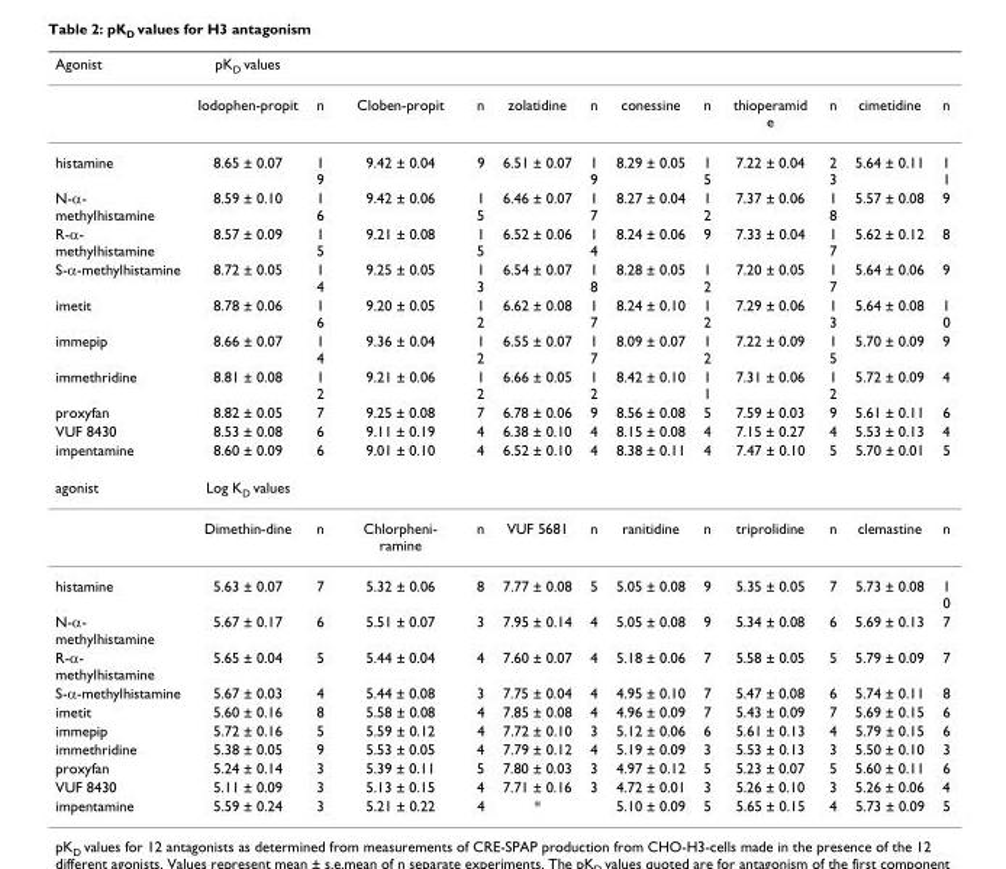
<table><thead><tr><td>Agonist</td><td>pK<sub>D</sub> values</td><td></td><td></td><td></td><td></td><td></td><td></td><td></td><td></td><td></td><td></td><td></td></tr></thead><tbody><tr><td></td><td>Iodophen-propit</td><td>n</td><td>Cloben-propit</td><td>n</td><td>zolatidine</td><td>n</td><td>conessine</td><td>n</td><td>thioperamid e</td><td>n</td><td>cimetidine</td><td>n</td></tr><tr><td>histamine</td><td>8.65 ± 0.07</td><td>1 9</td><td>9.42 ± 0.04</td><td>9</td><td>6.51 ± 0.07</td><td>1 9</td><td>8.29 ± 0.05</td><td>1 5</td><td>7.22 ± 0.04</td><td>2 3</td><td>5.64 ± 0.11</td><td>1 1</td></tr><tr><td>N-α- methylhistamine</td><td>8.59 ± 0.10</td><td>1 6</td><td>9.42 ± 0.06</td><td>1 5</td><td>6.46 ± 0.07</td><td>1 7</td><td>8.27 ± 0.04</td><td>1 2</td><td>7.37 ± 0.06</td><td>1 8</td><td>5.57 ± 0.08</td><td>9</td></tr><tr><td>R-α- methylhistamine</td><td>8.57 ± 0.09</td><td>1 5</td><td>9.21 ± 0.08</td><td>1 5</td><td>6.52 ± 0.06</td><td>1 4</td><td>8.24 ± 0.06</td><td>9</td><td>7.33 ± 0.04</td><td>1 7</td><td>5.62 ± 0.12</td><td>8</td></tr><tr><td>S-α-methylhistamine</td><td>8.72 ± 0.05</td><td>1 4</td><td>9.25 ± 0.05</td><td>1 3</td><td>6.54 ± 0.07</td><td>1 8</td><td>8.28 ± 0.05</td><td>1 2</td><td>7.20 ± 0.05</td><td>1 7</td><td>5.64 ± 0.06</td><td>9</td></tr><tr><td>imetit</td><td>8.78 ± 0.06</td><td>1 6</td><td>9.20 ± 0.05</td><td>1 2</td><td>6.62 ± 0.08</td><td>1 7</td><td>8.24 ± 0.10</td><td>1 2</td><td>7.29 ± 0.06</td><td>1 3</td><td>5.64 ± 0.08</td><td>1 0</td></tr><tr><td>immepip</td><td>8.66 ± 0.07</td><td>1 4</td><td>9.36 ± 0.04</td><td>1 2</td><td>6.55 ± 0.07</td><td>1 7</td><td>8.09 ± 0.07</td><td>1 2</td><td>7.22 ± 0.09</td><td>1 5</td><td>5.70 ± 0.09</td><td>9</td></tr><tr><td>immethridine</td><td>8.81 ± 0.08</td><td>1 2</td><td>9.21 ± 0.06</td><td>1 2</td><td>6.66 ± 0.05</td><td>1 2</td><td>8.42 ± 0.10</td><td>1 1</td><td>7.31 ± 0.06</td><td>1 2</td><td>5.72 ± 0.09</td><td>4</td></tr><tr><td>proxyfan</td><td>8.82 ± 0.05</td><td>7</td><td>9.25 ± 0.08</td><td>7</td><td>6.78 ± 0.06</td><td>9</td><td>8.56 ± 0.08</td><td>5</td><td>7.59 ± 0.03</td><td>9</td><td>5.61 ± 0.11</td><td>6</td></tr><tr><td>VUF 8430</td><td>8.53 ± 0.08</td><td>6</td><td>9.11 ± 0.19</td><td>4</td><td>6.38 ± 0.10</td><td>4</td><td>8.15 ± 0.08</td><td>4</td><td>7.15 ± 0.27</td><td>4</td><td>5.53 ± 0.13</td><td>4</td></tr><tr><td>impentamine</td><td>8.60 ± 0.09</td><td>6</td><td>9.01 ± 0.10</td><td>4</td><td>6.52 ± 0.10</td><td>4</td><td>8.38 ± 0.11</td><td>4</td><td>7.47 ± 0.10</td><td>5</td><td>5.70 ± 0.01</td><td>5</td></tr><tr><td rowspan="2">agonist</td><td>Log K<sub>D</sub> values</td><td></td><td></td><td></td><td></td><td></td><td></td><td></td><td></td><td></td><td></td><td></td></tr><tr><td>Dimethin-dine</td><td>n</td><td>Chlorpheni- ramine</td><td>n</td><td>VUF 5681</td><td>n</td><td>ranitidine</td><td>n</td><td>triprolidine</td><td>n</td><td>clemastine</td><td>n</td></tr><tr><td>histamine</td><td>5.63 ± 0.07</td><td>7</td><td>5.32 ± 0.06</td><td>8</td><td>7.77 ± 0.08</td><td>5</td><td>5.05 ± 0.08</td><td>9</td><td>5.35 ± 0.05</td><td>7</td><td>5.73 ± 0.08</td><td>1 0</td></tr><tr><td>N-α- methylhistamine</td><td>5.67 ± 0.17</td><td>6</td><td>5.51 ± 0.07</td><td>3</td><td>7.95 ± 0.14</td><td>4</td><td>5.05 ± 0.08</td><td>9</td><td>5.34 ± 0.08</td><td>6</td><td>5.69 ± 0.13</td><td>7</td></tr><tr><td>R-α- methylhistamine</td><td>5.65 ± 0.04</td><td>5</td><td>5.44 ± 0.04</td><td>4</td><td>7.60 ± 0.07</td><td>4</td><td>5.18 ± 0.06</td><td>7</td><td>5.58 ± 0.05</td><td>5</td><td>5.79 ± 0.09</td><td>7</td></tr><tr><td>S-α-methylhistamine</td><td>5.67 ± 0.03</td><td>4</td><td>5.44 ± 0.08</td><td>3</td><td>7.75 ± 0.04</td><td>4</td><td>4.95 ± 0.10</td><td>7</td><td>5.47 ± 0.08</td><td>6</td><td>5.74 ± 0.11</td><td>8</td></tr><tr><td>imetit</td><td>5.60 ± 0.16</td><td>8</td><td>5.58 ± 0.08</td><td>4</td><td>7.85 ± 0.08</td><td>4</td><td>4.96 ± 0.09</td><td>7</td><td>5.43 ± 0.09</td><td>7</td><td>5.69 ± 0.15</td><td>6</td></tr><tr><td>immepip</td><td>5.72 ± 0.16</td><td>5</td><td>5.59 ± 0.12</td><td>4</td><td>7.72 ± 0.10</td><td>3</td><td>5.12 ± 0.06</td><td>6</td><td>5.61 ± 0.13</td><td>4</td><td>5.79 ± 0.15</td><td>6</td></tr><tr><td>immethridine</td><td>5.38 ± 0.05</td><td>9</td><td>5.53 ± 0.05</td><td>4</td><td>7.79 ± 0.12</td><td>4</td><td>5.19 ± 0.09</td><td>3</td><td>5.53 ± 0.13</td><td>3</td><td>5.50 ± 0.10</td><td>3</td></tr><tr><td>proxyfan</td><td>5.24 ± 0.14</td><td>3</td><td>5.39 ± 0.11</td><td>5</td><td>7.80 ± 0.03</td><td>3</td><td>4.97 ± 0.12</td><td>5</td><td>5.23 ± 0.07</td><td>5</td><td>5.60 ± 0.11</td><td>6</td></tr><tr><td>VUF 8430</td><td>5.11 ± 0.09</td><td>3</td><td>5.13 ± 0.15</td><td>4</td><td>7.71 ± 0.16</td><td>3</td><td>4.72 ± 0.01</td><td>3</td><td>5.26 ± 0.10</td><td>3</td><td>5.26 ± 0.06</td><td>4</td></tr><tr><td>impentamine</td><td>5.59 ± 0.24</td><td>3</td><td>5.21 ± 0.22</td><td>4</td><td>*</td><td></td><td>5.10 ± 0.09</td><td>5</td><td>5.65 ± 0.15</td><td>4</td><td>5.73 ± 0.09</td><td>5</td></tr></tbody></table>